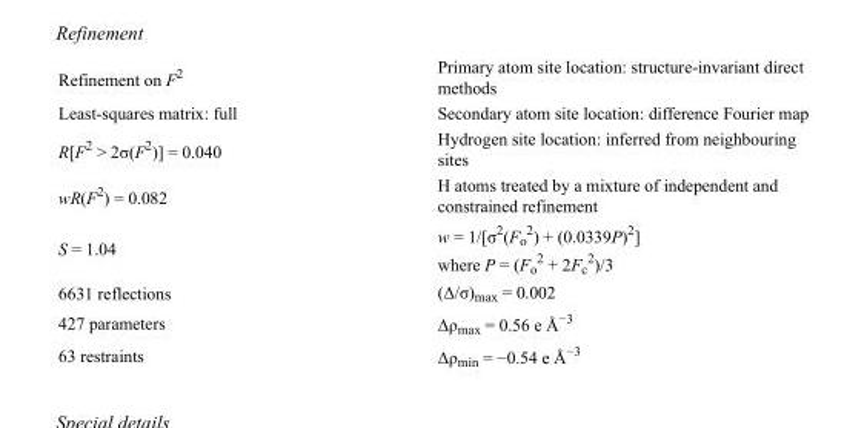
<table><tbody><tr><td>Refinement on F<sup>2</sup></td><td>Primary atom site location: structure-invariant direct methods</td></tr><tr><td>Least-squares matrix: full</td><td>Secondary atom site location: difference Fourier map</td></tr><tr><td>R[F<sup>2</sup> &gt; 2σ(F<sup>2</sup>)] = 0.040</td><td>Hydrogen site location: inferred from neighbouring sites</td></tr><tr><td>wR(F<sup>2</sup>) = 0.082</td><td>H atoms treated by a mixture of independent and constrained refinement</td></tr><tr><td>S = 1.04</td><td>w = 1/[σ<sup>2</sup>(F<sub>o</sub> <sup>2</sup>) + (0.0339P)<sup>2</sup>] where P = (F<sub>o</sub> <sup>2</sup> + 2F<sub>c</sub> <sup>2</sup>)/3</td></tr><tr><td>6631 reflections</td><td>(Δ/σ)<sub>max</sub> = 0.002</td></tr><tr><td>427 parameters</td><td>Δρ<sub>max</sub> = 0.56 e Å<sup>−3</sup></td></tr><tr><td>63 restraints</td><td>Δρ<sub>min</sub> = −0.54 e Å<sup>−3</sup></td></tr></tbody></table>